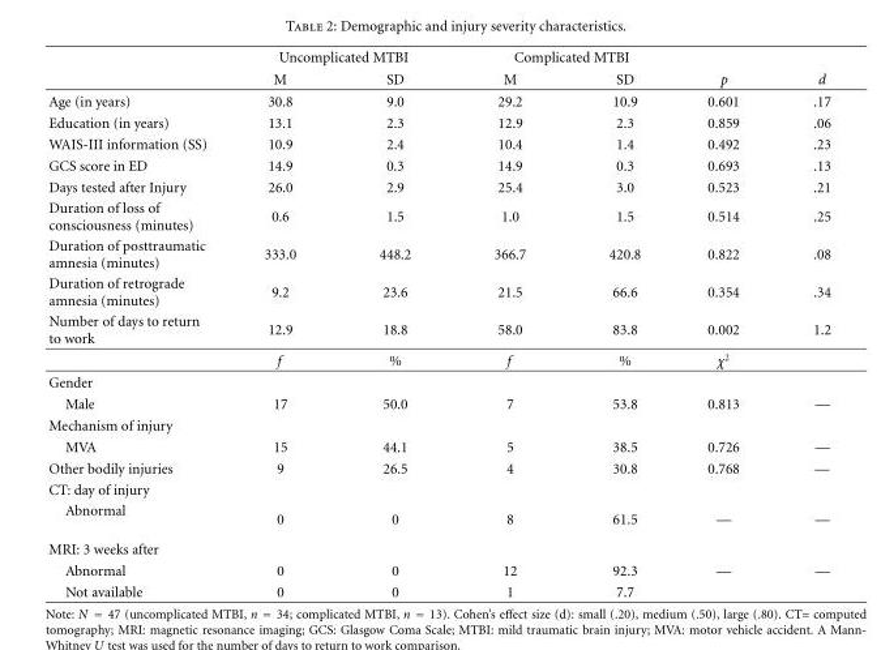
<table><thead><tr><td rowspan="2"></td><td colspan="2">Uncomplicated MTBI</td><td colspan="2">Complicated MTBI</td><td rowspan="2">p</td><td rowspan="2">d</td></tr><tr><td>M</td><td>SD</td><td>M</td><td>SD</td></tr></thead><tbody><tr><td>Age (in years)</td><td>30.8</td><td>9.0</td><td>29.2</td><td>10.9</td><td>0.601</td><td>.17</td></tr><tr><td>Education (in years)</td><td>13.1</td><td>2.3</td><td>12.9</td><td>2.3</td><td>0.859</td><td>.06</td></tr><tr><td>WAIS-III information (SS)</td><td>10.9</td><td>2.4</td><td>10.4</td><td>1.4</td><td>0.492</td><td>.23</td></tr><tr><td>GCS score in ED</td><td>14.9</td><td>0.3</td><td>14.9</td><td>0.3</td><td>0.693</td><td>.13</td></tr><tr><td>Days tested after Injury</td><td>26.0</td><td>2.9</td><td>25.4</td><td>3.0</td><td>0.523</td><td>.21</td></tr><tr><td>Duration of loss of consciousness (minutes)</td><td>0.6</td><td>1.5</td><td>1.0</td><td>1.5</td><td>0.514</td><td>.25</td></tr><tr><td>Duration of posttraumatic amnesia (minutes)</td><td>333.0</td><td>448.2</td><td>366.7</td><td>420.8</td><td>0.822</td><td>.08</td></tr><tr><td>Duration of retrograde amnesia (minutes)</td><td>9.2</td><td>23.6</td><td>21.5</td><td>66.6</td><td>0.354</td><td>.34</td></tr><tr><td rowspan="2">Number of days to return to work</td><td>12.9</td><td>18.8</td><td>58.0</td><td>83.8</td><td>0.002</td><td>1.2</td></tr><tr><td>f</td><td>%</td><td>f</td><td>%</td><td>χ<sup>2</sup></td><td></td></tr><tr><td colspan="7">Gender</td></tr><tr><td>Male</td><td>17</td><td>50.0</td><td>7</td><td>53.8</td><td>0.813</td><td>—</td></tr><tr><td colspan="7">Mechanism of injury</td></tr><tr><td>MVA</td><td>15</td><td>44.1</td><td>5</td><td>38.5</td><td>0.726</td><td>—</td></tr><tr><td>Other bodily injuries</td><td>9</td><td>26.5</td><td>4</td><td>30.8</td><td>0.768</td><td>—</td></tr><tr><td colspan="7">CT: day of injury</td></tr><tr><td>Abnormal</td><td>0</td><td>0</td><td>8</td><td>61.5</td><td>—</td><td>—</td></tr><tr><td colspan="7">MRI: 3 weeks after</td></tr><tr><td>Abnormal</td><td>0</td><td>0</td><td>12</td><td>92.3</td><td>—</td><td>—</td></tr><tr><td>Not available</td><td>0</td><td>0</td><td>1</td><td>7.7</td><td></td><td></td></tr></tbody></table>